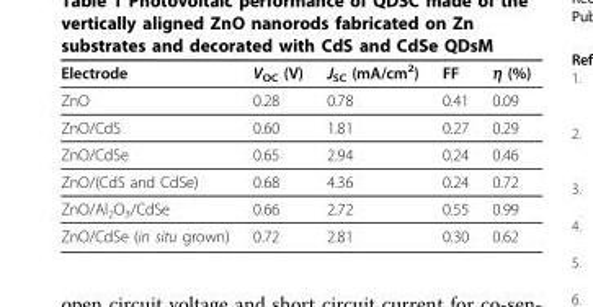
<table><thead><tr><td>Electrode</td><td>V<sub>OC</sub> (V)</td><td>J<sub>SC</sub> (mA/cm<sup>2</sup>)</td><td>FF</td><td>η (%)</td></tr></thead><tbody><tr><td>ZnO</td><td>0.28</td><td>0.78</td><td>0.41</td><td>0.09</td></tr><tr><td>ZnO/CdS</td><td>0.60</td><td>1.81</td><td>0.27</td><td>0.29</td></tr><tr><td>ZnO/CdSe</td><td>0.65</td><td>2.94</td><td>0.24</td><td>0.46</td></tr><tr><td>ZnO/(CdS and CdSe)</td><td>0.68</td><td>4.36</td><td>0.24</td><td>0.72</td></tr><tr><td>ZnO/Al<sub>2</sub>O<sub>3</sub>/CdSe</td><td>0.66</td><td>2.72</td><td>0.55</td><td>0.99</td></tr><tr><td>ZnO/CdSe (in situ grown)</td><td>0.72</td><td>2.81</td><td>0.30</td><td>0.62</td></tr></tbody></table>